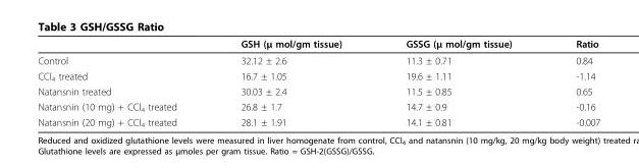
<table><thead><tr><td></td><td>GSH (μ mol/gm tissue)</td><td>GSSG (μ mol/gm tissue)</td><td>Ratio</td></tr></thead><tbody><tr><td>Control</td><td>32.12 ± 2.6</td><td>11.3 ± 0.71</td><td>0.84</td></tr><tr><td>CCl<sub>4</sub> treated</td><td>16.7 ± 1.05</td><td>19.6 ± 1.11</td><td>-1.14</td></tr><tr><td>Natansnin treated</td><td>30.03 ± 2.4</td><td>11.5 ± 0.85</td><td>0.65</td></tr><tr><td>Natansnin (10 mg) + CCl<sub>4</sub> treated</td><td>26.8 ± 1.7</td><td>14.7 ± 0.9</td><td>-0.16</td></tr><tr><td>Natansnin (20 mg) + CCl<sub>4</sub> treated</td><td>28.1 ± 1.91</td><td>14.1 ± 0.81</td><td>-0.007</td></tr></tbody></table>